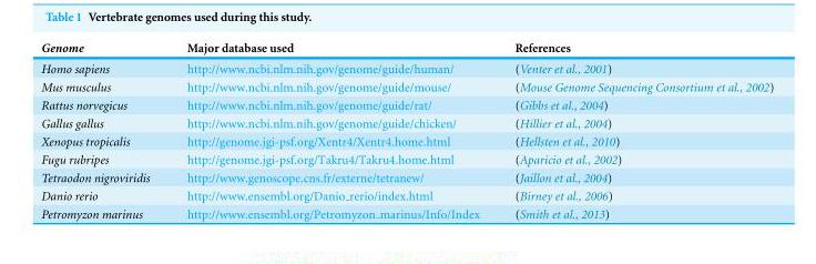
<table><thead><tr><td>Genome</td><td>Major database used</td><td>References</td></tr></thead><tbody><tr><td>Homo sapiens</td><td>http://www.ncbi.nlm.nih.gov/genome/guide/human/</td><td>(Venter et al., 2001)</td></tr><tr><td>Mus musculus</td><td>http://www.ncbi.nlm.nih.gov/genome/guide/mouse/</td><td>(Mouse Genome Sequencing Consortium et al., 2002)</td></tr><tr><td>Rattus norvegicus</td><td>http://www.ncbi.nlm.nih.gov/genome/guide/rat/</td><td>(Gibbs et al., 2004)</td></tr><tr><td>Gallus gallus</td><td>http://www.ncbi.nlm.nih.gov/genome/guide/chicken/</td><td>(Hillier et al., 2004)</td></tr><tr><td>Xenopus tropicalis</td><td>http://genome.jgi-psf.org/Xentr4/Xentr4.home.html</td><td>(Hellsten et al., 2010)</td></tr><tr><td>Fugu rubripes</td><td>http://genome.jgi-psf.org/Takru4/Takru4.home.html</td><td>(Aparicio et al., 2002)</td></tr><tr><td>Tetraodon nigroviridis</td><td>http://www.genoscope.cns.fr/externe/tetranew/</td><td>(Jaillon et al., 2004)</td></tr><tr><td>Danio rerio</td><td>http://www.ensembl.org/Danio rerio/index.html</td><td>(Birney et al., 2006)</td></tr><tr><td>Petromyzon marinus</td><td>http://www.ensembl.org/Petromyzon marinus/Info/Index</td><td>(Smith et al., 2013)</td></tr></tbody></table>